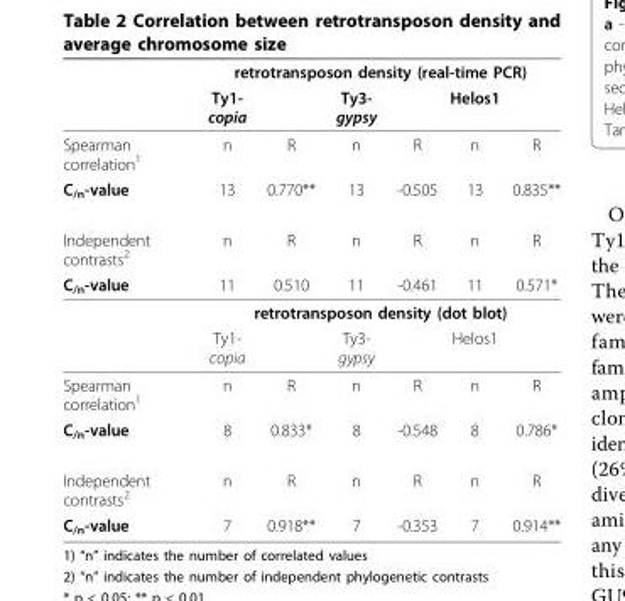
<table><thead><tr><td rowspan="2"></td><td colspan="6">retrotransposon density (real-time PCR)</td></tr><tr><td>Ty1- copia</td><td></td><td>Ty3- gypsy</td><td></td><td>Helos1</td><td></td></tr></thead><tbody><tr><td>Spearman correlation<sup>1</sup></td><td>n</td><td>R</td><td>n</td><td>R</td><td>n</td><td>R</td></tr><tr><td>C<sub>/n</sub>-value</td><td>13</td><td>0.770**</td><td>13</td><td>-0.505</td><td>13</td><td>0.835**</td></tr><tr><td>Independent contrasts<sup>2</sup></td><td>n</td><td>R</td><td>n</td><td>R</td><td>n</td><td>R</td></tr><tr><td rowspan="3">C<sub>/n</sub>-value</td><td>11</td><td>0.510</td><td>11</td><td>-0.461</td><td>11</td><td>0.571*</td></tr><tr><td colspan="6">retrotransposon density (dot blot)</td></tr><tr><td>Ty1- copia</td><td></td><td>Ty3- gypsy</td><td></td><td>Helos1</td><td></td></tr><tr><td>Spearman correlation<sup>1</sup></td><td>n</td><td>R</td><td>n</td><td>R</td><td>n</td><td>R</td></tr><tr><td>C<sub>/n</sub>-value</td><td>8</td><td>0.833*</td><td>8</td><td>-0.548</td><td>8</td><td>0.786*</td></tr><tr><td>Independent contrasts<sup>2</sup></td><td>n</td><td>R</td><td>n</td><td>R</td><td>n</td><td>R</td></tr><tr><td>C<sub>/n</sub>-value</td><td>7</td><td>0.918**</td><td>7</td><td>-0.353</td><td>7</td><td>0.914**</td></tr></tbody></table>